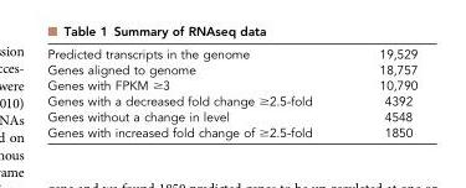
<table><tbody><tr><td>Predicted transcripts in the genome</td><td>19,529</td></tr><tr><td>Genes aligned to genome</td><td>18,757</td></tr><tr><td>Genes with FPKM ≥3</td><td>10,790</td></tr><tr><td>Genes with a decreased fold change ≥2.5-fold</td><td>4392</td></tr><tr><td>Genes without a change in level</td><td>4548</td></tr><tr><td>Genes with increased fold change of ≥2.5-fold</td><td>1850</td></tr></tbody></table>